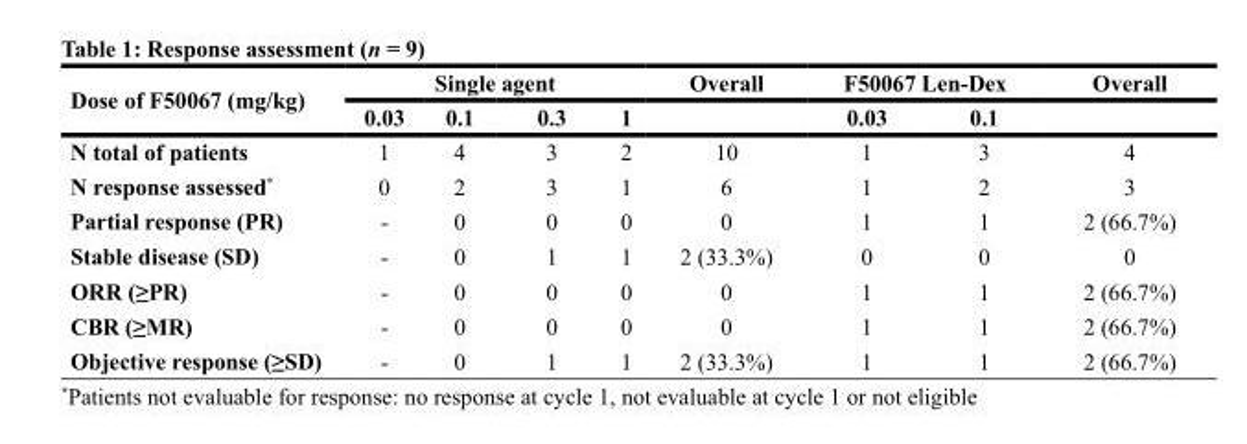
<table><thead><tr><td rowspan="2">Dose of F50067 (mg/kg)</td><td colspan="4">Single agent</td><td rowspan="2">Overall</td><td colspan="2">F50067 Len-Dex</td><td rowspan="2">Overall</td></tr><tr><td>0.03</td><td>0.1</td><td>0.3</td><td>1</td><td>0.03</td><td>0.1</td></tr></thead><tbody><tr><td>N total of patients</td><td>1</td><td>4</td><td>3</td><td>2</td><td>10</td><td>1</td><td>3</td><td>4</td></tr><tr><td>N response assessed*</td><td>0</td><td>2</td><td>3</td><td>1</td><td>6</td><td>1</td><td>2</td><td>3</td></tr><tr><td>Partial response (PR)</td><td>-</td><td>0</td><td>0</td><td>0</td><td>0</td><td>1</td><td>1</td><td>2 (66.7%)</td></tr><tr><td>Stable disease (SD)</td><td>-</td><td>0</td><td>1</td><td>1</td><td>2 (33.3%)</td><td>0</td><td>0</td><td>0</td></tr><tr><td>ORR (≥PR)</td><td>-</td><td>0</td><td>0</td><td>0</td><td>0</td><td>1</td><td>1</td><td>2 (66.7%)</td></tr><tr><td>CBR (≥MR)</td><td>-</td><td>0</td><td>0</td><td>0</td><td>0</td><td>1</td><td>1</td><td>2 (66.7%)</td></tr><tr><td>Objective response (≥SD)</td><td>-</td><td>0</td><td>1</td><td>1</td><td>2 (33.3%)</td><td>1</td><td>1</td><td>2 (66.7%)</td></tr></tbody></table>